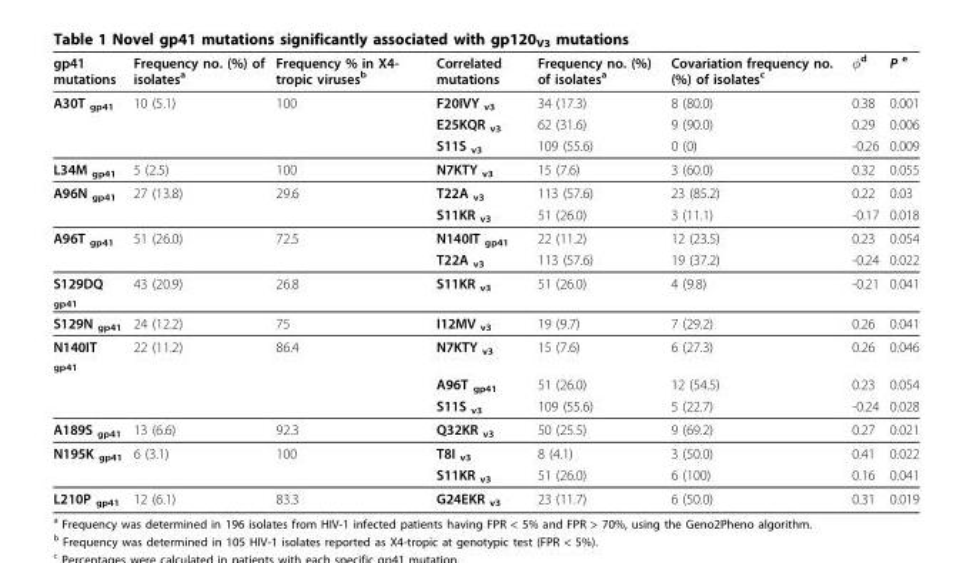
<table><thead><tr><td>gp41 mutations</td><td>Frequency no. (%) of isolates<sup>a</sup></td><td>Frequency % in X4- tropic viruses<sup>b</sup></td><td>Correlated mutations</td><td>Frequency no. (%) of isolates<sup>a</sup></td><td>Covariation frequency no. (%) of isolates<sup>c</sup></td><td>φ<sup>d</sup></td><td>P <sup>e</sup></td></tr></thead><tbody><tr><td rowspan="3">A30T <sub>gp41</sub></td><td>10 (5.1)</td><td>100</td><td>F20IVY <sub>v3</sub></td><td>34 (17.3)</td><td>8 (80.0)</td><td>0.38</td><td>0.001</td></tr><tr><td></td><td></td><td>E25KQR <sub>v3</sub></td><td>62 (31.6)</td><td>9 (90.0)</td><td>0.29</td><td>0.006</td></tr><tr><td></td><td></td><td>S11S <sub>v3</sub></td><td>109 (55.6)</td><td>0 (0)</td><td>-0.26</td><td>0.009</td></tr><tr><td>L34M <sub>gp41</sub></td><td>5 (2.5)</td><td>100</td><td>N7KTY <sub>v3</sub></td><td>15 (7.6)</td><td>3 (60.0)</td><td>0.32</td><td>0.055</td></tr><tr><td rowspan="2">A96N <sub>gp41</sub></td><td>27 (13.8)</td><td>29.6</td><td>T22A <sub>v3</sub></td><td>113 (57.6)</td><td>23 (85.2)</td><td>0.22</td><td>0.03</td></tr><tr><td></td><td></td><td>S11KR <sub>v3</sub></td><td>51 (26.0)</td><td>3 (11.1)</td><td>-0.17</td><td>0.018</td></tr><tr><td rowspan="2">A96T <sub>gp41</sub></td><td>51 (26.0)</td><td>72.5</td><td>N140IT <sub>gp41</sub></td><td>22 (11.2)</td><td>12 (23.5)</td><td>0.23</td><td>0.054</td></tr><tr><td></td><td></td><td>T22A <sub>v3</sub></td><td>113 (57.6)</td><td>19 (37.2)</td><td>-0.24</td><td>0.022</td></tr><tr><td>S129DQ <sub>gp41</sub></td><td>43 (20.9)</td><td>26.8</td><td>S11KR <sub>v3</sub></td><td>51 (26.0)</td><td>4 (9.8)</td><td>-0.21</td><td>0.041</td></tr><tr><td>S129N <sub>gp41</sub></td><td>24 (12.2)</td><td>75</td><td>I12MV <sub>v3</sub></td><td>19 (9.7)</td><td>7 (29.2)</td><td>0.26</td><td>0.041</td></tr><tr><td rowspan="3">N140IT <sub>gp41</sub></td><td>22 (11.2)</td><td>86.4</td><td>N7KTY <sub>v3</sub></td><td>15 (7.6)</td><td>6 (27.3)</td><td>0.26</td><td>0.046</td></tr><tr><td></td><td></td><td>A96T <sub>gp41</sub></td><td>51 (26.0)</td><td>12 (54.5)</td><td>0.23</td><td>0.054</td></tr><tr><td></td><td></td><td>S11S <sub>v3</sub></td><td>109 (55.6)</td><td>5 (22.7)</td><td>-0.24</td><td>0.028</td></tr><tr><td>A189S <sub>gp41</sub></td><td>13 (6.6)</td><td>92.3</td><td>Q32KR <sub>v3</sub></td><td>50 (25.5)</td><td>9 (69.2)</td><td>0.27</td><td>0.021</td></tr><tr><td rowspan="2">N195K <sub>gp41</sub></td><td>6 (3.1)</td><td>100</td><td>T8I <sub>v3</sub></td><td>8 (4.1)</td><td>3 (50.0)</td><td>0.41</td><td>0.022</td></tr><tr><td></td><td></td><td>S11KR <sub>v3</sub></td><td>51 (26.0)</td><td>6 (100)</td><td>0.16</td><td>0.041</td></tr><tr><td>L210P <sub>gp41</sub></td><td>12 (6.1)</td><td>83.3</td><td>G24EKR <sub>v3</sub></td><td>23 (11.7)</td><td>6 (50.0)</td><td>0.31</td><td>0.019</td></tr></tbody></table>